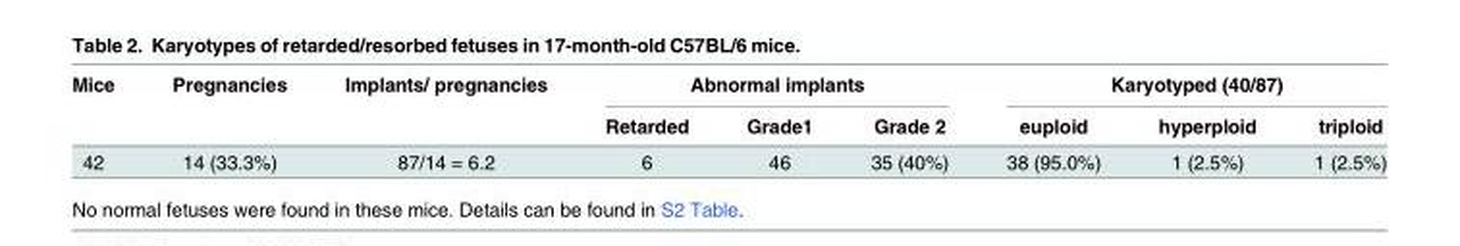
<table><thead><tr><td rowspan="2">Mice</td><td rowspan="2">Pregnancies</td><td rowspan="2">Implants/ pregnancies</td><td colspan="3">Abnormal implants</td><td colspan="3">Karyotyped (40/87)</td></tr><tr><td>Retarded</td><td>Grade1</td><td>Grade 2</td><td>euploid</td><td>hyperploid</td><td>triploid</td></tr></thead><tbody><tr><td>42</td><td>14 (33.3%)</td><td>87/14 = 6.2</td><td>6</td><td>46</td><td>35 (40%)</td><td>38 (95.0%)</td><td>1 (2.5%)</td><td>1 (2.5%)</td></tr></tbody></table>